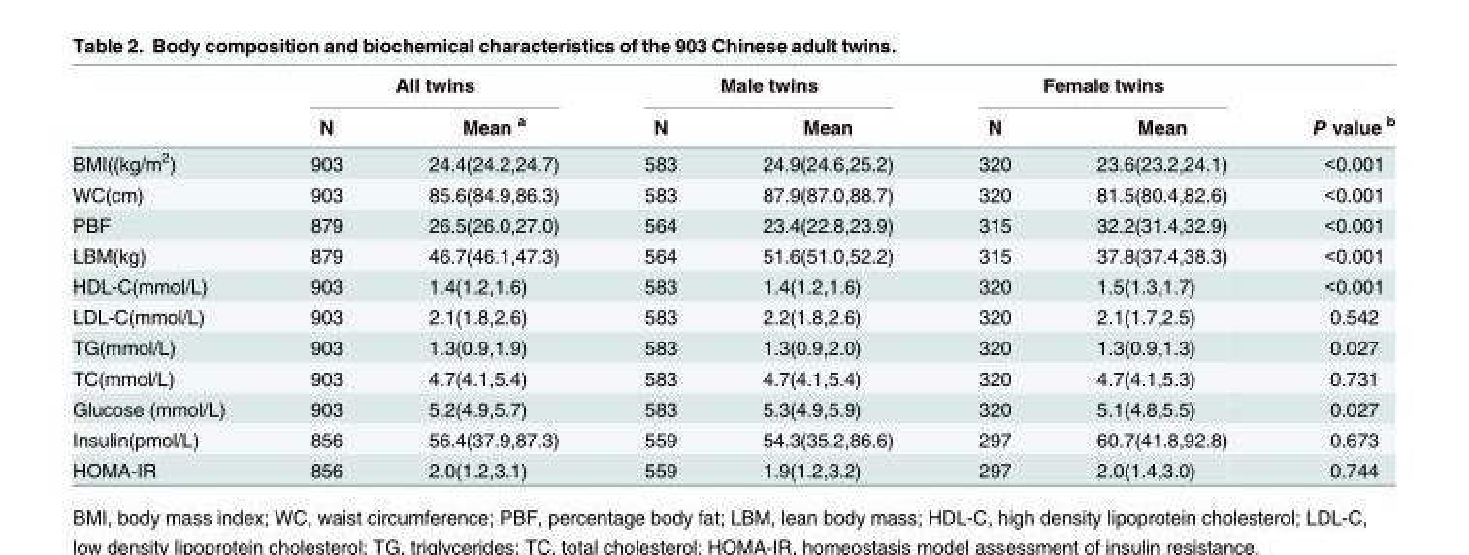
<table><thead><tr><td rowspan="2"></td><td colspan="2">All twins</td><td colspan="2">Male twins</td><td colspan="2">Female twins</td><td rowspan="2">P value <sup>b</sup></td></tr><tr><td>N</td><td>Mean <sup>a</sup></td><td>N</td><td>Mean</td><td>N</td><td>Mean</td></tr></thead><tbody><tr><td>BMI((kg/m<sup>2</sup>)</td><td>903</td><td>24.4(24.2,24.7)</td><td>583</td><td>24.9(24.6,25.2)</td><td>320</td><td>23.6(23.2,24.1)</td><td>&lt;0.001</td></tr><tr><td>WC(cm)</td><td>903</td><td>85.6(84.9,86.3)</td><td>583</td><td>87.9(87.0,88.7)</td><td>320</td><td>81.5(80.4,82.6)</td><td>&lt;0.001</td></tr><tr><td>PBF</td><td>879</td><td>26.5(26.0,27.0)</td><td>564</td><td>23.4(22.8,23.9)</td><td>315</td><td>32.2(31.4,32.9)</td><td>&lt;0.001</td></tr><tr><td>LBM(kg)</td><td>879</td><td>46.7(46.1,47.3)</td><td>564</td><td>51.6(51.0,52.2)</td><td>315</td><td>37.8(37.4,38.3)</td><td>&lt;0.001</td></tr><tr><td>HDL-C(mmol/L)</td><td>903</td><td>1.4(1.2,1.6)</td><td>583</td><td>1.4(1.2,1.6)</td><td>320</td><td>1.5(1.3,1.7)</td><td>&lt;0.001</td></tr><tr><td>LDL-C(mmol/L)</td><td>903</td><td>2.1(1.8,2.6)</td><td>583</td><td>2.2(1.8,2.6)</td><td>320</td><td>2.1(1.7,2.5)</td><td>0.542</td></tr><tr><td>TG(mmol/L)</td><td>903</td><td>1.3(0.9,1.9)</td><td>583</td><td>1.3(0.9,2.0)</td><td>320</td><td>1.3(0.9,1.3)</td><td>0.027</td></tr><tr><td>TC(mmol/L)</td><td>903</td><td>4.7(4.1,5.4)</td><td>583</td><td>4.7(4.1,5.4)</td><td>320</td><td>4.7(4.1,5.3)</td><td>0.731</td></tr><tr><td>Glucose (mmol/L)</td><td>903</td><td>5.2(4.9,5.7)</td><td>583</td><td>5.3(4.9,5.9)</td><td>320</td><td>5.1(4.8,5.5)</td><td>0.027</td></tr><tr><td>Insulin(pmol/L)</td><td>856</td><td>56.4(37.9,87.3)</td><td>559</td><td>54.3(35.2,86.6)</td><td>297</td><td>60.7(41.8,92.8)</td><td>0.673</td></tr><tr><td>HOMA-IR</td><td>856</td><td>2.0(1.2,3.1)</td><td>559</td><td>1.9(1.2,3.2)</td><td>297</td><td>2.0(1.4,3.0)</td><td>0.744</td></tr></tbody></table>